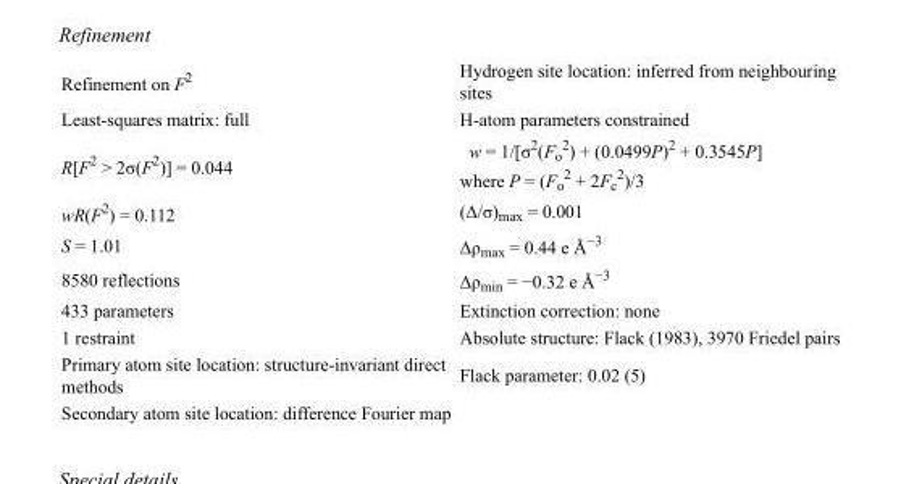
<table><tbody><tr><td>Refinement on F<sup>2</sup></td><td>Hydrogen site location: inferred from neighbouring sites</td></tr><tr><td>Least-squares matrix: full</td><td>H-atom parameters constrained</td></tr><tr><td>R[F<sup>2</sup> &gt; 2σ(F<sup>2</sup>)] = 0.044</td><td>w = 1/[σ<sup>2</sup>(F<sub>o</sub> <sup>2</sup>) + (0.0499P)<sup>2</sup> + 0.3545P] where P = (F<sub>o</sub> <sup>2</sup> + 2F<sub>c</sub> <sup>2</sup>)/3</td></tr><tr><td>wR(F<sup>2</sup>) = 0.112</td><td>(Δ/σ)<sub>max</sub> = 0.001</td></tr><tr><td>S = 1.01</td><td>Δρ<sub>max</sub> = 0.44 e Å<sup>−3</sup></td></tr><tr><td>8580 reflections</td><td>Δρ<sub>min</sub> = −0.32 e Å<sup>−3</sup></td></tr><tr><td>433 parameters</td><td>Extinction correction: none</td></tr><tr><td>1 restraint</td><td>Absolute structure: Flack (1983), 3970 Friedel pairs</td></tr><tr><td>Primary atom site location: structure-invariant direct methods</td><td>Flack parameter: 0.02 (5)</td></tr><tr><td>Secondary atom site location: difference Fourier map</td><td></td></tr></tbody></table>